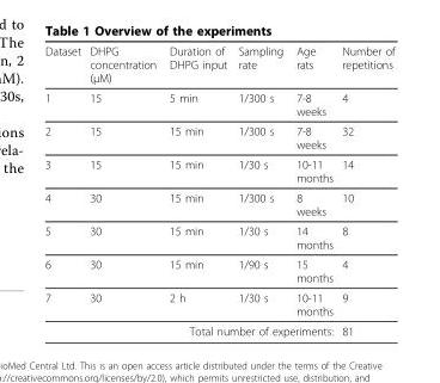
<table><thead><tr><td>Dataset</td><td>DHPG concentration (µM)</td><td>Duration of DHPG input</td><td>Sampling rate</td><td>Age rats</td><td>Number of repetitions</td></tr></thead><tbody><tr><td>1</td><td>15</td><td>5 min</td><td>1/300 s</td><td>7-8 weeks</td><td>4</td></tr><tr><td>2</td><td>15</td><td>15 min</td><td>1/300 s</td><td>7-8 weeks</td><td>32</td></tr><tr><td>3</td><td>15</td><td>15 min</td><td>1/30 s</td><td>10-11 months</td><td>14</td></tr><tr><td>4</td><td>30</td><td>15 min</td><td>1/300 s</td><td>8 weeks</td><td>10</td></tr><tr><td>5</td><td>30</td><td>15 min</td><td>1/30 s</td><td>14 months</td><td>8</td></tr><tr><td>6</td><td>30</td><td>15 min</td><td>1/90 s</td><td>15 months</td><td>4</td></tr><tr><td>7</td><td>30</td><td>2 h</td><td>1/30 s</td><td>10-11 months</td><td>9</td></tr><tr><td colspan="5">Total number of experiments:</td><td>81</td></tr></tbody></table>